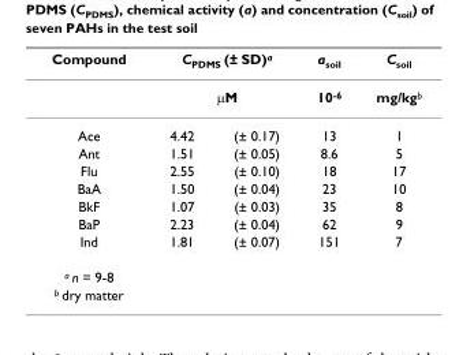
<table><thead><tr><td rowspan="3">Compound Ace</td><td rowspan="2" colspan="2">CPDMS (± SD)a µM</td><td rowspan="3">asoil 10-6 13</td><td rowspan="3">Csoil mg/kgb 1</td></tr><tr></tr><tr><td>4.42</td><td>(± 0.17)</td></tr></thead><tbody><tr><td>Ant</td><td>1.51</td><td>(± 0.05)</td><td>8.6</td><td>5</td></tr><tr><td>Flu</td><td>2.55</td><td>(± 0.10)</td><td>18</td><td>17</td></tr><tr><td>BaA</td><td>1.50</td><td>(± 0.04)</td><td>23</td><td>10</td></tr><tr><td>BkF</td><td>1.07</td><td>(± 0.03)</td><td>35</td><td>8</td></tr><tr><td>BaP</td><td>2.23</td><td>(± 0.04)</td><td>62</td><td>9</td></tr><tr><td>Ind</td><td>1.81</td><td>(± 0.07)</td><td>151</td><td>7</td></tr><tr><td colspan="5"><sup>a</sup> n = 9-8</td></tr><tr><td><sup>b</sup> dry matter</td><td></td><td></td><td></td><td></td></tr></tbody></table>